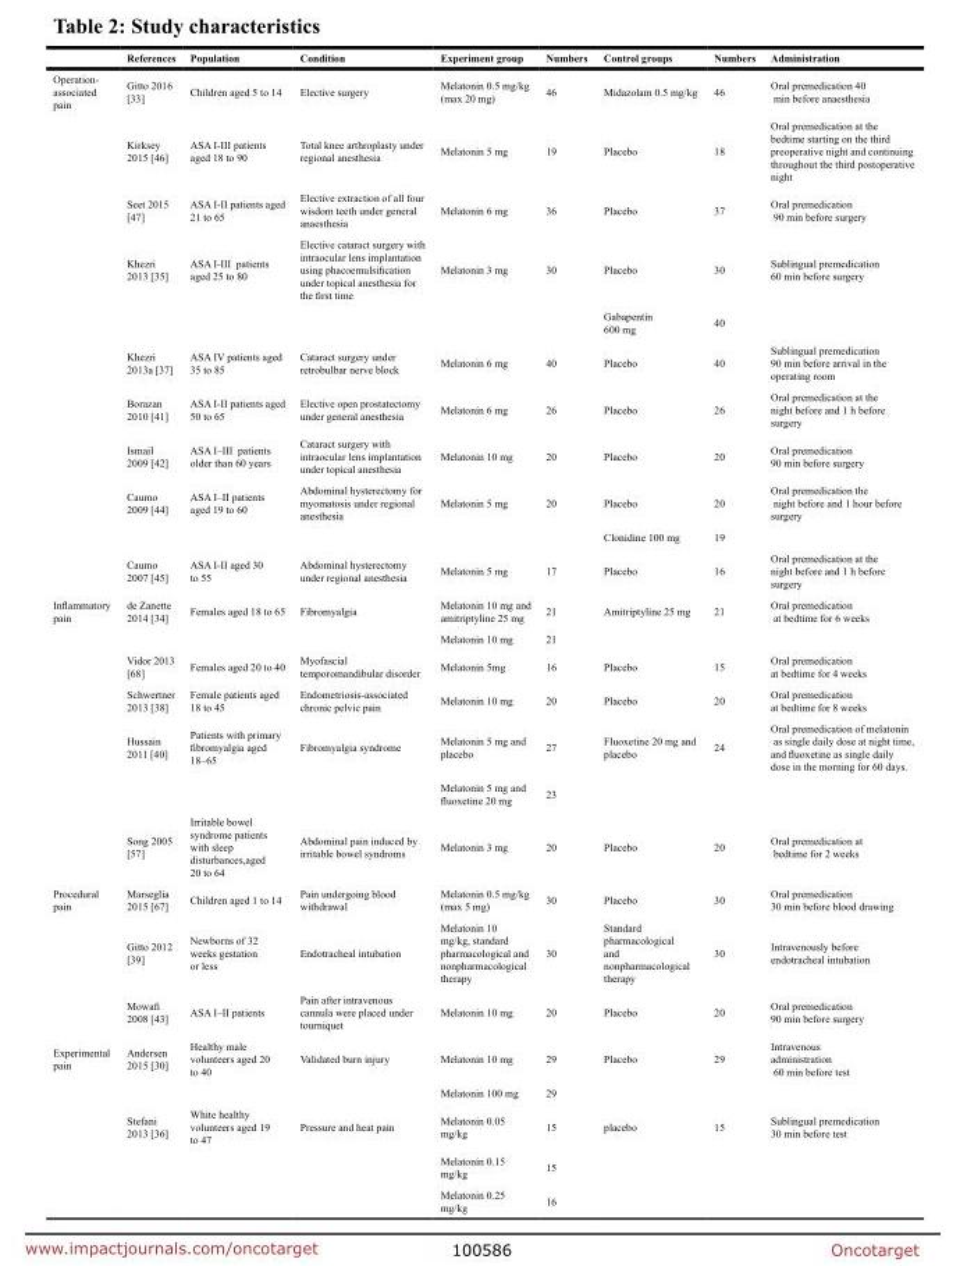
<table><thead><tr><td></td><td>References</td><td>Population</td><td>Condition</td><td>Experiment group</td><td>Numbers</td><td>Control groups</td><td>Numbers</td><td>Administration</td></tr></thead><tbody><tr><td rowspan="11">Operation- associated pain</td><td>Gitto 2016 [33]</td><td>Children aged 5 to 14</td><td>Elective surgery</td><td>Melatonin 0.5 mg/kg (max 20 mg)</td><td>46</td><td>Midazolam 0.5 mg/kg</td><td>46</td><td>Oral premedication 40 min before anaesthesia</td></tr><tr><td>Kirksey 2015 [46]</td><td>ASA I-III patients aged 18 to 90</td><td>Total knee arthroplasty under regional anesthesia</td><td>Melatonin 5 mg</td><td>19</td><td>Placebo</td><td>18</td><td>Oral premedication at the bedtime starting on the third preoperative night and continuing throughout the third postoperative night</td></tr><tr><td>Seet 2015 [47]</td><td>ASA I-II patients aged 21 to 65</td><td>Elective extraction of all four wisdom teeth under general anaesthesia</td><td>Melatonin 6 mg</td><td>36</td><td>Placebo</td><td>37</td><td>Oral premedication 90 min before surgery</td></tr><tr><td>Khezri 2013 [35]</td><td>ASA I-III patients aged 25 to 80</td><td>Elective cataract surgery with intraocular lens implantation using phacoemulsification under topical anesthesia for the first time</td><td>Melatonin 3 mg</td><td>30</td><td>Placebo</td><td>30</td><td>Sublingual premedication 60 min before surgery</td></tr><tr><td></td><td></td><td></td><td></td><td></td><td>Gabapentin 600 mg</td><td>40</td><td></td></tr><tr><td>Khezri 2013a [37]</td><td>ASA IV patients aged 35 to 85</td><td>Cataract surgery under retrobulbar nerve block</td><td>Melatonin 6 mg</td><td>40</td><td>Placebo</td><td>40</td><td>Sublingual premedication 90 min before arrival in the operating room</td></tr><tr><td>Borazan 2010 [41]</td><td>ASA I-II patients aged 50 to 65</td><td>Elective open prostatectomy under general anesthesia</td><td>Melatonin 6 mg</td><td>26</td><td>Placebo</td><td>26</td><td>Oral premedication at the night before and 1 h before surgery</td></tr><tr><td>Ismail 2009 [42]</td><td>ASA I–III patients older than 60 years</td><td>Cataract surgery with intraocular lens implantation under topical anesthesia</td><td>Melatonin 10 mg</td><td>20</td><td>Placebo</td><td>20</td><td>Oral premedication 90 min before surgery</td></tr><tr><td>Caumo 2009 [44]</td><td>ASA I–II patients aged 19 to 60</td><td>Abdominal hysterectomy for myomatosis under regional anesthesia</td><td>Melatonin 5 mg</td><td>20</td><td>Placebo</td><td>20</td><td>Oral premedication the night before and 1 hour before surgery</td></tr><tr><td></td><td></td><td></td><td></td><td></td><td>Clonidine 100 mg</td><td>19</td><td></td></tr><tr><td>Caumo 2007 [45]</td><td>ASA I-II aged 30 to 55</td><td>Abdominal hysterectomy under regional anesthesia</td><td>Melatonin 5 mg</td><td>17</td><td>Placebo</td><td>16</td><td>Oral premedication at the night before and 1 h before surgery</td></tr><tr><td rowspan="7">Inflammatory pain</td><td>de Zanette 2014 [34]</td><td>Females aged 18 to 65</td><td>Fibromyalgia</td><td>Melatonin 10 mg and amitriptyline 25 mg</td><td>21</td><td>Amitriptyline 25 mg</td><td>21</td><td>Oral premedication at bedtime for 6 weeks</td></tr><tr><td></td><td></td><td></td><td>Melatonin 10 mg</td><td>21</td><td></td><td></td><td></td></tr><tr><td>Vidor 2013 [68]</td><td>Females aged 20 to 40</td><td>Myofascial temporomandibular disorder</td><td>Melatonin 5mg</td><td>16</td><td>Placebo</td><td>15</td><td>Oral premedication at bedtime for 4 weeks</td></tr><tr><td>Schwertner 2013 [38]</td><td>Female patients aged 18 to 45</td><td>Endometriosis-associated chronic pelvic pain</td><td>Melatonin 10 mg</td><td>20</td><td>Placebo</td><td>20</td><td>Oral premedication at bedtime for 8 weeks</td></tr><tr><td>Hussain 2011 [40]</td><td>Patients with primary fibromyalgia aged 18–65</td><td>Fibromyalgia syndrome</td><td>Melatonin 5 mg and placebo</td><td>27</td><td>Fluoxetine 20 mg and placebo</td><td>24</td><td>Oral premedication of melatonin as single daily dose at night time, and fluoxetine as single daily dose in the morning for 60 days.</td></tr><tr><td></td><td></td><td></td><td>Melatonin 5 mg and fluoxetine 20 mg</td><td>23</td><td></td><td></td><td></td></tr><tr><td>Song 2005 [57]</td><td>Irritable bowel syndrome patients with sleep disturbances,aged 20 to 64</td><td>Abdominal pain induced by irritable bowel syndroms</td><td>Melatonin 3 mg</td><td>20</td><td>Placebo</td><td>20</td><td>Oral premedication at bedtime for 2 weeks</td></tr><tr><td rowspan="3">Procedural pain</td><td>Marseglia 2015 [67]</td><td>Children aged 1 to 14</td><td>Pain undergoing blood withdrawal</td><td>Melatonin 0.5 mg/kg (max 5 mg)</td><td>30</td><td>Placebo</td><td>30</td><td>Oral premedication 30 min before blood drawing</td></tr><tr><td>Gitto 2012 [39]</td><td>Newborns of 32 weeks gestation or less</td><td>Endotracheal intubation</td><td>Melatonin 10 mg/kg, standard pharmacological and nonpharmacological therapy</td><td>30</td><td>Standard pharmacological and nonpharmacological therapy</td><td>30</td><td>Intravenously before endotracheal intubation</td></tr><tr><td>Mowafi 2008 [43]</td><td>ASA I–II patients</td><td>Pain after intravenous cannula were placed under tourniquet</td><td>Melatonin 10 mg</td><td>20</td><td>Placebo</td><td>20</td><td>Oral premedication 90 min before surgery</td></tr><tr><td rowspan="5">Experimental pain</td><td>Andersen 2015 [30]</td><td>Healthy male volunteers aged 20 to 40</td><td>Validated burn injury</td><td>Melatonin 10 mg</td><td>29</td><td>Placebo</td><td>29</td><td>Intravenous administration 60 min before test</td></tr><tr><td></td><td></td><td></td><td>Melatonin 100 mg</td><td>29</td><td></td><td></td><td></td></tr><tr><td>Stefani 2013 [36]</td><td>White healthy volunteers aged 19 to 47</td><td>Pressure and heat pain</td><td>Melatonin 0.05 mg/kg</td><td>15</td><td>placebo</td><td>15</td><td>Sublingual premedication 30 min before test</td></tr><tr><td></td><td></td><td></td><td>Melatonin 0.15 mg/kg</td><td>15</td><td></td><td></td><td></td></tr><tr><td></td><td></td><td></td><td>Melatonin 0.25 mg/kg</td><td>16</td><td></td><td></td><td></td></tr></tbody></table>